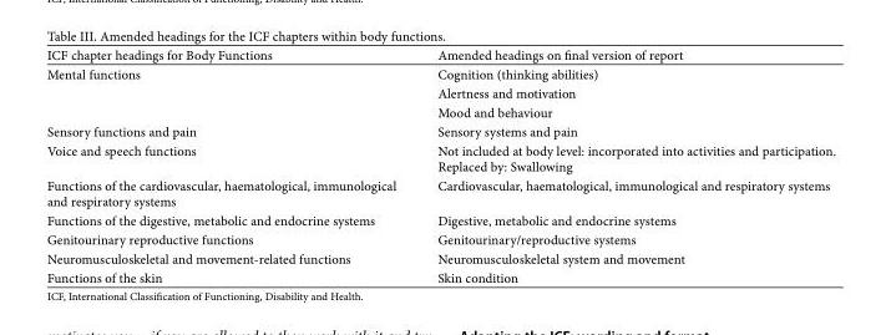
<table><thead><tr><td>ICF chapter headings for Body Functions</td><td>Amended headings on final version of report</td></tr></thead><tbody><tr><td>Mental functions</td><td>Cognition (thinking abilities) Alertness and motivation Mood and behaviour</td></tr><tr><td>Sensory functions and pain</td><td>Sensory systems and pain</td></tr><tr><td>Voice and speech functions</td><td>Not included at body level: incorporated into activities and participation. Replaced by: Swallowing</td></tr><tr><td>Functions of the cardiovascular, haematological, immunological and respiratory systems</td><td>Cardiovascular, haematological, immunological and respiratory systems</td></tr><tr><td>Functions of the digestive, metabolic and endocrine systems</td><td>Digestive, metabolic and endocrine systems</td></tr><tr><td>Genitourinary reproductive functions</td><td>Genitourinary/reproductive systems</td></tr><tr><td>Neuromusculoskeletal and movement-related functions</td><td>Neuromusculoskeletal system and movement</td></tr><tr><td>Functions of the skin</td><td>Skin condition</td></tr></tbody></table>